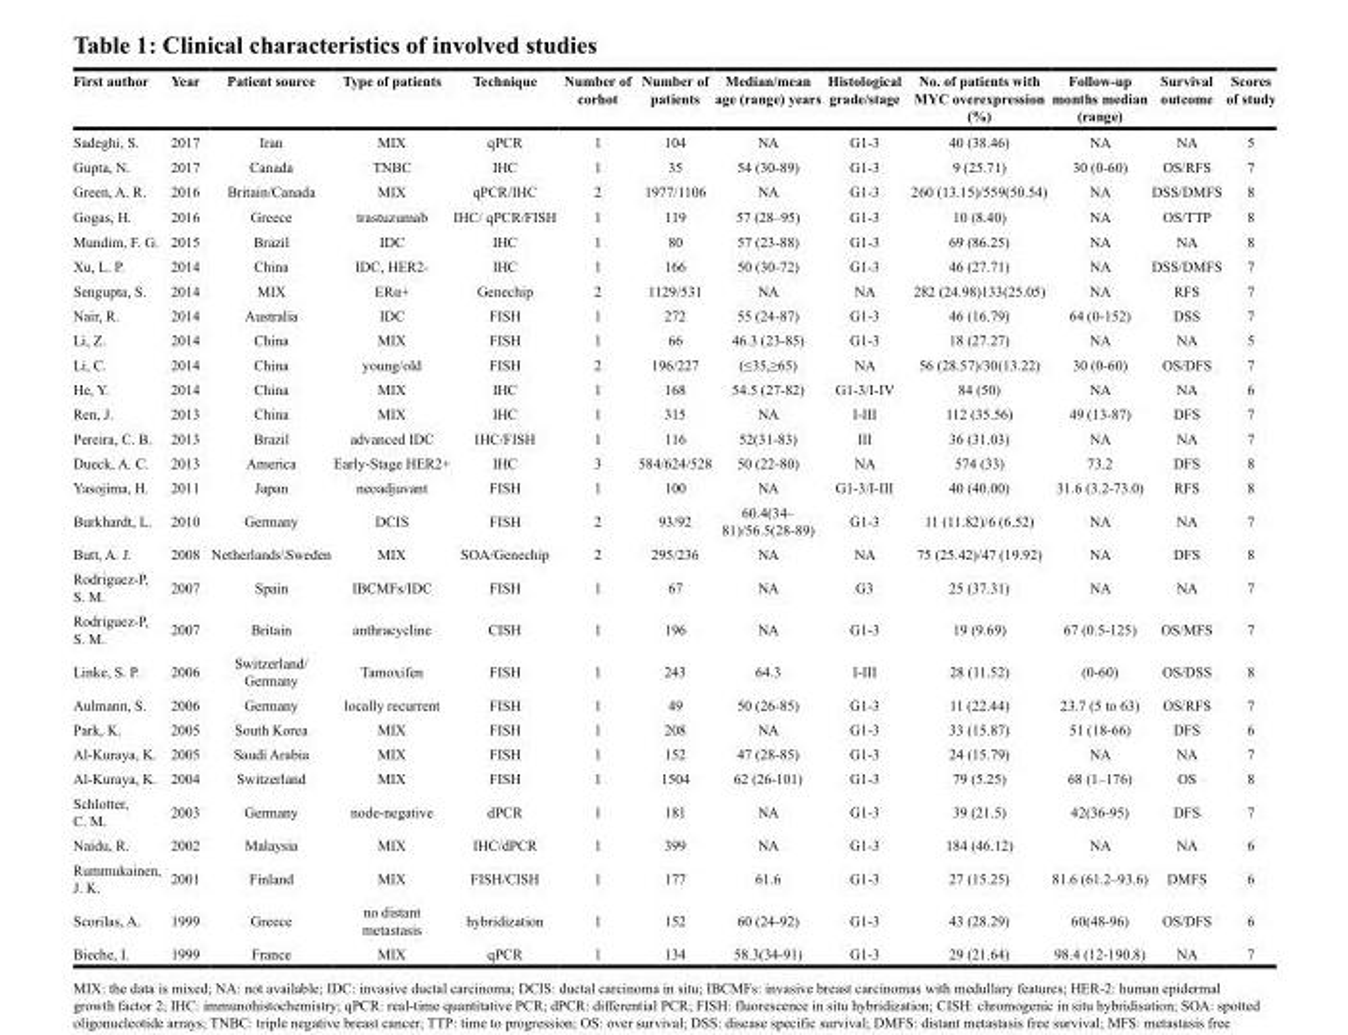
<table><thead><tr><td>First author</td><td>Year</td><td>Patient source</td><td>Type of patients</td><td>Technique</td><td>Number of corhot</td><td>Number of patients</td><td>Median/mean age (range) years</td><td>Histological grade/stage</td><td>No. of patients with MYC overexpression (%)</td><td>Follow-up months median (range)</td><td>Survival outcome</td><td>Scores of study</td></tr></thead><tbody><tr><td>Sadeghi, S.</td><td>2017</td><td>Iran</td><td>MIX</td><td>qPCR</td><td>1</td><td>104</td><td>NA</td><td>G1-3</td><td>40 (38.46)</td><td>NA</td><td>NA</td><td>5</td></tr><tr><td>Gupta, N.</td><td>2017</td><td>Canada</td><td>TNBC</td><td>IHC</td><td>1</td><td>35</td><td>54 (30-89)</td><td>G1-3</td><td>9 (25.71)</td><td>30 (0-60)</td><td>OS/RFS</td><td>7</td></tr><tr><td>Green, A. R.</td><td>2016</td><td>Britain/Canada</td><td>MIX</td><td>qPCR/IHC</td><td>2</td><td>1977/1106</td><td>NA</td><td>G1-3</td><td>260 (13.15)/559(50.54)</td><td>NA</td><td>DSS/DMFS</td><td>8</td></tr><tr><td>Gogas, H.</td><td>2016</td><td>Greece</td><td>trastuzumab</td><td>IHC/ qPCR/FISH</td><td>1</td><td>119</td><td>57 (28–95)</td><td>G1-3</td><td>10 (8.40)</td><td>NA</td><td>OS/TTP</td><td>8</td></tr><tr><td>Mundim, F. G.</td><td>2015</td><td>Brazil</td><td>IDC</td><td>IHC</td><td>1</td><td>80</td><td>57 (23-88)</td><td>G1-3</td><td>69 (86.25)</td><td>NA</td><td>NA</td><td>8</td></tr><tr><td>Xu, L. P.</td><td>2014</td><td>China</td><td>IDC, HER2-</td><td>IHC</td><td>1</td><td>166</td><td>50 (30-72)</td><td>G1-3</td><td>46 (27.71)</td><td>NA</td><td>DSS/DMFS</td><td>7</td></tr><tr><td>Sengupta, S.</td><td>2014</td><td>MIX</td><td>ERα+</td><td>Genechip</td><td>2</td><td>1129/531</td><td>NA</td><td>NA</td><td>282 (24.98)133(25.05)</td><td>NA</td><td>RFS</td><td>7</td></tr><tr><td>Nair, R.</td><td>2014</td><td>Australia</td><td>IDC</td><td>FISH</td><td>1</td><td>272</td><td>55 (24-87)</td><td>G1-3</td><td>46 (16.79)</td><td>64 (0-152)</td><td>DSS</td><td>7</td></tr><tr><td>Li, Z.</td><td>2014</td><td>China</td><td>MIX</td><td>FISH</td><td>1</td><td>66</td><td>46.3 (23-85)</td><td>G1-3</td><td>18 (27.27)</td><td>NA</td><td>NA</td><td>5</td></tr><tr><td>Li, C.</td><td>2014</td><td>China</td><td>young/old</td><td>FISH</td><td>2</td><td>196/227</td><td>(≤35,≥65)</td><td>NA</td><td>56 (28.57)/30(13.22)</td><td>30 (0-60)</td><td>OS/DFS</td><td>7</td></tr><tr><td>He, Y.</td><td>2014</td><td>China</td><td>MIX</td><td>IHC</td><td>1</td><td>168</td><td>54.5 (27-82)</td><td>G1-3/I-IV</td><td>84 (50)</td><td>NA</td><td>NA</td><td>6</td></tr><tr><td>Ren, J.</td><td>2013</td><td>China</td><td>MIX</td><td>IHC</td><td>1</td><td>315</td><td>NA</td><td>I-III</td><td>112 (35.56)</td><td>49 (13-87)</td><td>DFS</td><td>7</td></tr><tr><td>Pereira, C. B.</td><td>2013</td><td>Brazil</td><td>advanced IDC</td><td>IHC/FISH</td><td>1</td><td>116</td><td>52(31-83)</td><td>III</td><td>36 (31.03)</td><td>NA</td><td>NA</td><td>7</td></tr><tr><td>Dueck, A. C.</td><td>2013</td><td>America</td><td>Early-Stage HER2+</td><td>IHC</td><td>3</td><td>584/624/528</td><td>50 (22-80)</td><td>NA</td><td>574 (33)</td><td>73.2</td><td>DFS</td><td>8</td></tr><tr><td>Yasojima, H.</td><td>2011</td><td>Japan</td><td>neoadjuvant</td><td>FISH</td><td>1</td><td>100</td><td>NA</td><td>G1-3/I-III</td><td>40 (40.00)</td><td>31.6 (3.2-73.0)</td><td>RFS</td><td>8</td></tr><tr><td>Burkhardt, L.</td><td>2010</td><td>Germany</td><td>DCIS</td><td>FISH</td><td>2</td><td>93/92</td><td>60.4(34– 81)/56.5(28-89)</td><td>G1-3</td><td>11 (11.82)/6 (6.52)</td><td>NA</td><td>NA</td><td>7</td></tr><tr><td>Butt, A. J.</td><td>2008</td><td>Netherlands\Sweden</td><td>MIX</td><td>SOA/Genechip</td><td>2</td><td>295/236</td><td>NA</td><td>NA</td><td>75 (25.42)/47 (19.92)</td><td>NA</td><td>DFS</td><td>8</td></tr><tr><td>Rodriguez-P, S. M.</td><td>2007</td><td>Spain</td><td>IBCMFs/IDC</td><td>FISH</td><td>1</td><td>67</td><td>NA</td><td>G3</td><td>25 (37.31)</td><td>NA</td><td>NA</td><td>7</td></tr><tr><td>Rodriguez-P, S. M.</td><td>2007</td><td>Britain</td><td>anthracycline</td><td>CISH</td><td>1</td><td>196</td><td>NA</td><td>G1-3</td><td>19 (9.69)</td><td>67 (0.5-125)</td><td>OS/MFS</td><td>7</td></tr><tr><td>Linke, S. P.</td><td>2006</td><td>Switzerland/ Germany</td><td>Tamoxifen</td><td>FISH</td><td>1</td><td>243</td><td>64.3</td><td>I-III</td><td>28 (11.52)</td><td>(0-60)</td><td>OS/DSS</td><td>8</td></tr><tr><td>Aulmann, S.</td><td>2006</td><td>Germany</td><td>locally recurrent</td><td>FISH</td><td>1</td><td>49</td><td>50 (26-85)</td><td>G1-3</td><td>11 (22.44)</td><td>23.7 (5 to 63)</td><td>OS/RFS</td><td>7</td></tr><tr><td>Park, K.</td><td>2005</td><td>South Korea</td><td>MIX</td><td>FISH</td><td>1</td><td>208</td><td>NA</td><td>G1-3</td><td>33 (15.87)</td><td>51 (18-66)</td><td>DFS</td><td>6</td></tr><tr><td>Al-Kuraya, K.</td><td>2005</td><td>Saudi Arabia</td><td>MIX</td><td>FISH</td><td>1</td><td>152</td><td>47 (28-85)</td><td>G1-3</td><td>24 (15.79)</td><td>NA</td><td>NA</td><td>7</td></tr><tr><td>Al-Kuraya, K.</td><td>2004</td><td>Switzerland</td><td>MIX</td><td>FISH</td><td>1</td><td>1504</td><td>62 (26-101)</td><td>G1-3</td><td>79 (5.25)</td><td>68 (1–176)</td><td>OS</td><td>8</td></tr><tr><td>Schlotter, C. M.</td><td>2003</td><td>Germany</td><td>node-negative</td><td>dPCR</td><td>1</td><td>181</td><td>NA</td><td>G1-3</td><td>39 (21.5)</td><td>42(36-95)</td><td>DFS</td><td>7</td></tr><tr><td>Naidu, R.</td><td>2002</td><td>Malaysia</td><td>MIX</td><td>IHC/dPCR</td><td>1</td><td>399</td><td>NA</td><td>G1-3</td><td>184 (46.12)</td><td>NA</td><td>NA</td><td>6</td></tr><tr><td>Rummukainen, J. K.</td><td>2001</td><td>Finland</td><td>MIX</td><td>FISH/CISH</td><td>1</td><td>177</td><td>61.6</td><td>G1-3</td><td>27 (15.25)</td><td>81.6 (61.2–93.6)</td><td>DMFS</td><td>6</td></tr><tr><td>Scorilas, A.</td><td>1999</td><td>Greece</td><td>no distant metastasis</td><td>hybridization</td><td>1</td><td>152</td><td>60 (24-92)</td><td>G1-3</td><td>43 (28.29)</td><td>60(48-96)</td><td>OS/DFS</td><td>6</td></tr><tr><td>Bieche, I.</td><td>1999</td><td>France</td><td>MIX</td><td>qPCR</td><td>1</td><td>134</td><td>58.3(34-91)</td><td>G1-3</td><td>29 (21.64)</td><td>98.4 (12-190.8)</td><td>NA</td><td>7</td></tr></tbody></table>